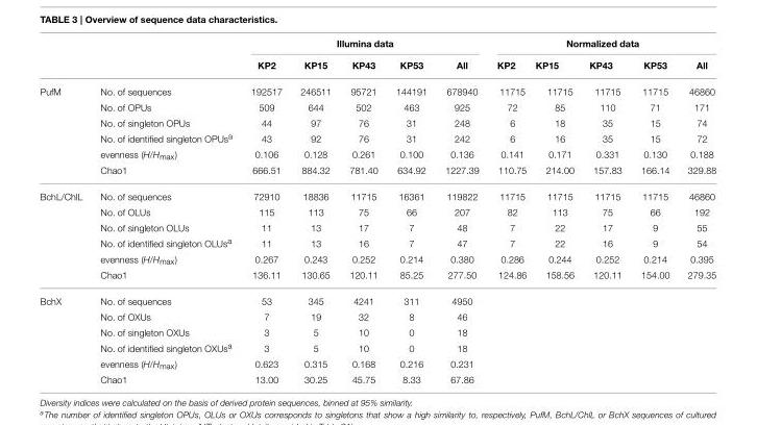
<table><thead><tr><td rowspan="2"></td><td rowspan="2"></td><td colspan="5">Illumina data</td><td colspan="5">Normalized data</td></tr><tr><td>KP2</td><td>KP15</td><td>KP43</td><td>KP53</td><td>All</td><td>KP2</td><td>KP15</td><td>KP43</td><td>KP53</td><td>All</td></tr></thead><tbody><tr><td rowspan="6">PufM</td><td>No. of sequences</td><td>192517</td><td>246511</td><td>95721</td><td>144191</td><td>678940</td><td>11715</td><td>11715</td><td>11715</td><td>11715</td><td>46860</td></tr><tr><td>No. of OPUs</td><td>509</td><td>644</td><td>502</td><td>463</td><td>925</td><td>72</td><td>85</td><td>110</td><td>71</td><td>171</td></tr><tr><td>No. of singleton OPUs</td><td>44</td><td>97</td><td>76</td><td>31</td><td>248</td><td>6</td><td>18</td><td>35</td><td>15</td><td>74</td></tr><tr><td>No. of identified singleton OPUs<sup>a</sup></td><td>43</td><td>92</td><td>76</td><td>31</td><td>242</td><td>6</td><td>16</td><td>35</td><td>15</td><td>72</td></tr><tr><td>evenness (H/H<sub>max</sub>)</td><td>0.106</td><td>0.128</td><td>0.261</td><td>0.100</td><td>0.136</td><td>0.141</td><td>0.171</td><td>0.331</td><td>0.130</td><td>0.188</td></tr><tr><td>Chao1</td><td>666.51</td><td>884.32</td><td>781.40</td><td>634.92</td><td>1227.39</td><td>110.75</td><td>214.00</td><td>157.83</td><td>166.14</td><td>329.88</td></tr><tr><td rowspan="6">BchL/ChlL</td><td>No. of sequences</td><td>72910</td><td>18836</td><td>11715</td><td>16361</td><td>119822</td><td>11715</td><td>11715</td><td>11715</td><td>11715</td><td>46860</td></tr><tr><td>No. of OLUs</td><td>115</td><td>113</td><td>75</td><td>66</td><td>207</td><td>82</td><td>113</td><td>75</td><td>66</td><td>192</td></tr><tr><td>No. of singleton OLUs</td><td>11</td><td>13</td><td>17</td><td>7</td><td>48</td><td>7</td><td>22</td><td>17</td><td>9</td><td>55</td></tr><tr><td>No. of identified singleton OLUs<sup>a</sup></td><td>11</td><td>13</td><td>16</td><td>7</td><td>47</td><td>7</td><td>22</td><td>16</td><td>9</td><td>54</td></tr><tr><td>evenness (H/H<sub>max</sub>)</td><td>0.267</td><td>0.243</td><td>0.252</td><td>0.214</td><td>0.380</td><td>0.286</td><td>0.244</td><td>0.252</td><td>0.214</td><td>0.395</td></tr><tr><td>Chao1</td><td>136.11</td><td>130.65</td><td>120.11</td><td>85.25</td><td>277.50</td><td>124.86</td><td>158.56</td><td>120.11</td><td>154.00</td><td>279.35</td></tr><tr><td rowspan="6">BchX</td><td>No. of sequences</td><td>53</td><td>345</td><td>4241</td><td>311</td><td>4950</td><td></td><td></td><td></td><td></td><td></td></tr><tr><td>No. of OXUs</td><td>7</td><td>19</td><td>32</td><td>8</td><td>46</td><td></td><td></td><td></td><td></td><td></td></tr><tr><td>No. of singleton OXUs</td><td>3</td><td>5</td><td>10</td><td>0</td><td>18</td><td></td><td></td><td></td><td></td><td></td></tr><tr><td>No. of identified singleton OXUs<sup>a</sup></td><td>3</td><td>5</td><td>10</td><td>0</td><td>18</td><td></td><td></td><td></td><td></td><td></td></tr><tr><td>evenness (H/H<sub>max</sub>)</td><td>0.623</td><td>0.315</td><td>0.168</td><td>0.216</td><td>0.231</td><td></td><td></td><td></td><td></td><td></td></tr><tr><td>Chao1</td><td>13.00</td><td>30.25</td><td>45.75</td><td>8.33</td><td>67.86</td><td></td><td></td><td></td><td></td><td></td></tr></tbody></table>